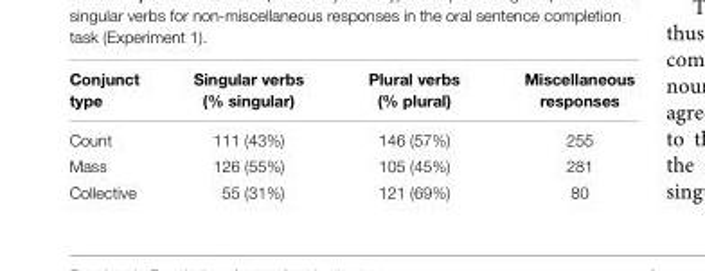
<table><thead><tr><td>Conjunct type</td><td>Singular verbs (% singular)</td><td>Plural verbs (% plural)</td><td>Miscellaneous responses</td></tr></thead><tbody><tr><td>Count</td><td>111 (43%)</td><td>146 (57%)</td><td>255</td></tr><tr><td>Mass</td><td>126 (55%)</td><td>105 (45%)</td><td>281</td></tr><tr><td>Collective</td><td>55 (31%)</td><td>121 (69%)</td><td>80</td></tr></tbody></table>